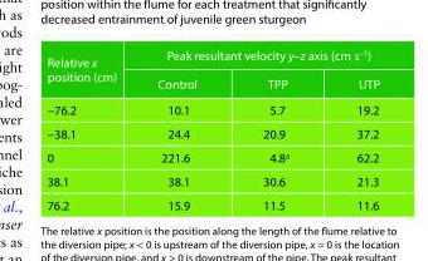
<table><thead><tr><td rowspan="2">Relative x position (cm)</td><td colspan="3">Peak resultant velocity y–z axis (cm s<sup>−1</sup>)</td></tr><tr><td>Control</td><td>TPP</td><td>UTP</td></tr></thead><tbody><tr><td>−76.2</td><td>10.1</td><td>5.7</td><td>19.2</td></tr><tr><td>−38.1</td><td>24.4</td><td>20.9</td><td>37.2</td></tr><tr><td>0</td><td>221.6</td><td>4.8<sup>a</sup></td><td>62.2</td></tr><tr><td>38.1</td><td>38.1</td><td>30.6</td><td>21.3</td></tr><tr><td>76.2</td><td>15.9</td><td>11.5</td><td>11.6</td></tr></tbody></table>